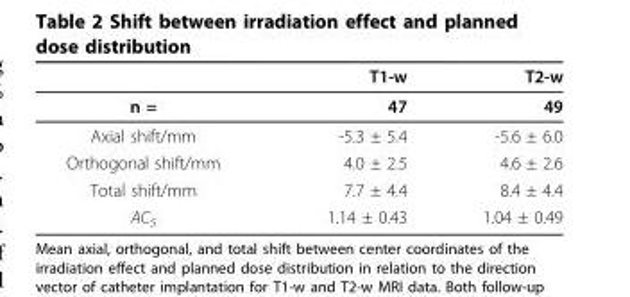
<table><thead><tr><td></td><td>T1-w</td><td>T2-w</td></tr></thead><tbody><tr><td>n =</td><td>47</td><td>49</td></tr><tr><td>Axial shift/mm</td><td>-5.3 ± 5.4</td><td>-5.6 ± 6.0</td></tr><tr><td>Orthogonal shift/mm</td><td>4.0 ± 2.5</td><td>4.6 ± 2.6</td></tr><tr><td>Total shift/mm</td><td>7.7 ± 4.4</td><td>8.4 ± 4.4</td></tr><tr><td>AC<sub>S</sub></td><td>1.14 ± 0.43</td><td>1.04 ± 0.49</td></tr></tbody></table>